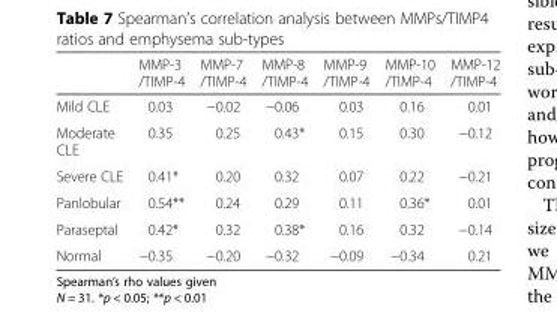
<table><thead><tr><td></td><td>MMP-3 /TIMP-4</td><td>MMP-7 /TIMP-4</td><td>MMP-8 /TIMP-4</td><td>MMP-9 /TIMP-4</td><td>MMP-10 /TIMP-4</td><td>MMP-12 /TIMP-4</td></tr></thead><tbody><tr><td>Mild CLE</td><td>0.03</td><td>−0.02</td><td>−0.06</td><td>0.03</td><td>0.16</td><td>0.01</td></tr><tr><td>Moderate CLE</td><td>0.35</td><td>0.25</td><td>0.43*</td><td>0.15</td><td>0.30</td><td>−0.12</td></tr><tr><td>Severe CLE</td><td>0.41*</td><td>0.20</td><td>0.32</td><td>0.07</td><td>0.22</td><td>−0.21</td></tr><tr><td>Panlobular</td><td>0.54**</td><td>0.24</td><td>0.29</td><td>0.11</td><td>0.36*</td><td>0.01</td></tr><tr><td>Paraseptal</td><td>0.42*</td><td>0.32</td><td>0.38*</td><td>0.16</td><td>0.32</td><td>−0.14</td></tr><tr><td>Normal</td><td>−0.35</td><td>−0.20</td><td>−0.32</td><td>−0.09</td><td>−0.34</td><td>0.21</td></tr></tbody></table>